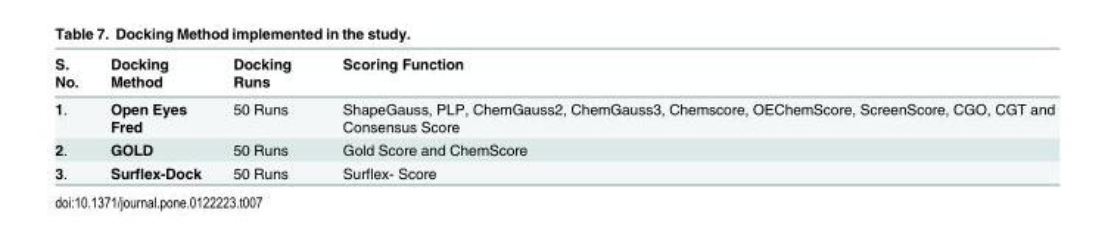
<table><thead><tr><td>S. No.</td><td>Docking Method</td><td>Docking Runs</td><td>Scoring Function</td></tr></thead><tbody><tr><td>1.</td><td>Open Eyes Fred</td><td>50 Runs</td><td>ShapeGauss, PLP, ChemGauss2, ChemGauss3, Chemscore, OEChemScore, ScreenScore, CGO, CGT and Consensus Score</td></tr><tr><td>2.</td><td>GOLD</td><td>50 Runs</td><td>Gold Score and ChemScore</td></tr><tr><td>3.</td><td>Surflex-Dock</td><td>50 Runs</td><td>Surflex- Score</td></tr></tbody></table>